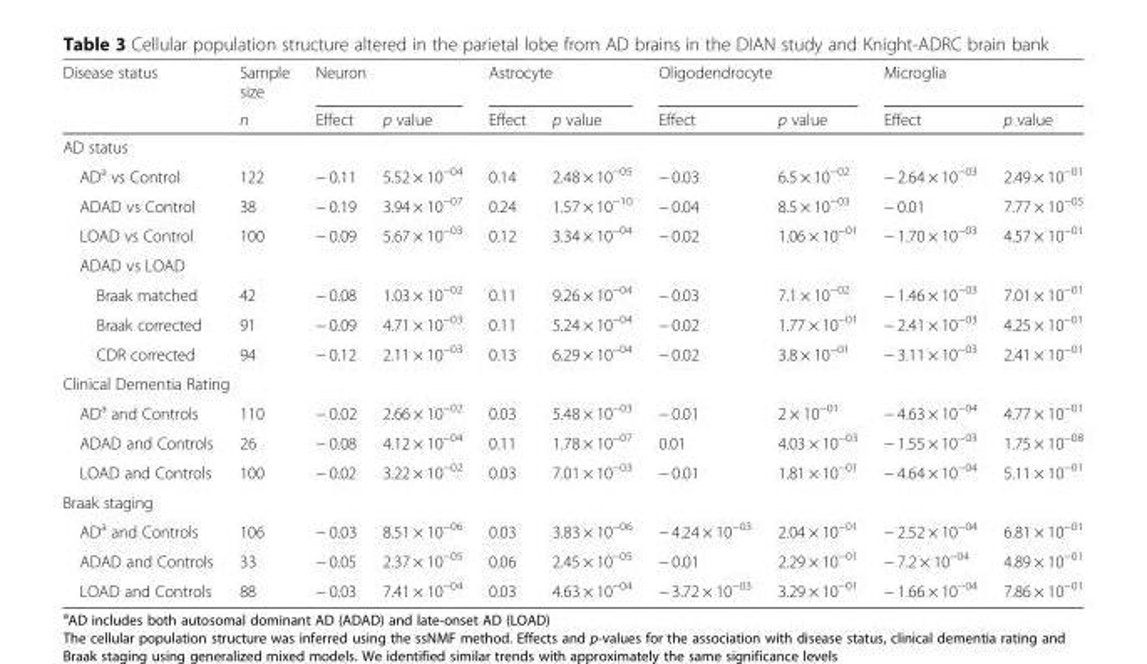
<table><thead><tr><td rowspan="2">Disease status</td><td rowspan="2">Sample size n</td><td colspan="2">Neuron</td><td colspan="2">Astrocyte</td><td colspan="2">Oligodendrocyte</td><td colspan="2">Microglia</td></tr><tr><td>Effect</td><td>p value</td><td>Effect</td><td>p value</td><td>Effect</td><td>p value</td><td>Effect</td><td>p value</td></tr></thead><tbody><tr><td colspan="10">AD status</td></tr><tr><td>AD<sup>a</sup> vs Control</td><td>122</td><td>− 0.11</td><td>5.52 × 10<sup>−04</sup></td><td>0.14</td><td>2.48 × 10<sup>−05</sup></td><td>− 0.03</td><td>6.5 × 10<sup>−02</sup></td><td>− 2.64 × 10<sup>−03</sup></td><td>2.49 × 10<sup>−01</sup></td></tr><tr><td>ADAD vs Control</td><td>38</td><td>− 0.19</td><td>3.94 × 10<sup>−07</sup></td><td>0.24</td><td>1.57 × 10<sup>−10</sup></td><td>− 0.04</td><td>8.5 × 10<sup>−03</sup></td><td>− 0.01</td><td>7.77 × 10<sup>−05</sup></td></tr><tr><td>LOAD vs Control</td><td>100</td><td>− 0.09</td><td>5.67 × 10<sup>−03</sup></td><td>0.12</td><td>3.34 × 10<sup>−04</sup></td><td>− 0.02</td><td>1.06 × 10<sup>−01</sup></td><td>− 1.70 × 10<sup>−03</sup></td><td>4.57 × 10<sup>−01</sup></td></tr><tr><td colspan="10">ADAD vs LOAD</td></tr><tr><td>Braak matched</td><td>42</td><td>− 0.08</td><td>1.03 × 10<sup>−02</sup></td><td>0.11</td><td>9.26 × 10<sup>−04</sup></td><td>− 0.03</td><td>7.1 × 10<sup>−02</sup></td><td>− 1.46 × 10<sup>−03</sup></td><td>7.01 × 10<sup>−01</sup></td></tr><tr><td>Braak corrected</td><td>91</td><td>− 0.09</td><td>4.71 × 10<sup>−03</sup></td><td>0.11</td><td>5.24 × 10<sup>−04</sup></td><td>− 0.02</td><td>1.77 × 10<sup>−01</sup></td><td>− 2.41 × 10<sup>−03</sup></td><td>4.25 × 10<sup>−01</sup></td></tr><tr><td>CDR corrected</td><td>94</td><td>− 0.12</td><td>2.11 × 10<sup>−03</sup></td><td>0.13</td><td>6.29 × 10<sup>−04</sup></td><td>− 0.02</td><td>3.8 × 10<sup>−01</sup></td><td>− 3.11 × 10<sup>−03</sup></td><td>2.41 × 10<sup>−01</sup></td></tr><tr><td colspan="10">Clinical Dementia Rating</td></tr><tr><td>AD<sup>a</sup> and Controls</td><td>110</td><td>− 0.02</td><td>2.66 × 10<sup>−02</sup></td><td>0.03</td><td>5.48 × 10<sup>−03</sup></td><td>− 0.01</td><td>2 × 10<sup>−01</sup></td><td>− 4.63 × 10<sup>−04</sup></td><td>4.77 × 10<sup>−01</sup></td></tr><tr><td>ADAD and Controls</td><td>26</td><td>− 0.08</td><td>4.12 × 10<sup>−04</sup></td><td>0.11</td><td>1.78 × 10<sup>−07</sup></td><td>0.01</td><td>4.03 × 10<sup>−03</sup></td><td>− 1.55 × 10<sup>−03</sup></td><td>1.75 × 10<sup>−08</sup></td></tr><tr><td>LOAD and Controls</td><td>100</td><td>− 0.02</td><td>3.22 × 10<sup>−02</sup></td><td>0.03</td><td>7.01 × 10<sup>−03</sup></td><td>− 0.01</td><td>1.81 × 10<sup>−01</sup></td><td>− 4.64 × 10<sup>−04</sup></td><td>5.11 × 10<sup>−01</sup></td></tr><tr><td colspan="10">Braak staging</td></tr><tr><td>AD<sup>a</sup> and Controls</td><td>106</td><td>− 0.03</td><td>8.51 × 10<sup>−06</sup></td><td>0.03</td><td>3.83 × 10<sup>−06</sup></td><td>− 4.24 × 10<sup>−03</sup></td><td>2.04 × 10<sup>−01</sup></td><td>− 2.52 × 10<sup>−04</sup></td><td>6.81 × 10<sup>−01</sup></td></tr><tr><td>ADAD and Controls</td><td>33</td><td>− 0.05</td><td>2.37 × 10<sup>−05</sup></td><td>0.06</td><td>2.45 × 10<sup>−05</sup></td><td>− 0.01</td><td>2.29 × 10<sup>−01</sup></td><td>− 7.2 × 10<sup>−04</sup></td><td>4.89 × 10<sup>−01</sup></td></tr><tr><td>LOAD and Controls</td><td>88</td><td>− 0.03</td><td>7.41 × 10<sup>−04</sup></td><td>0.03</td><td>4.63 × 10<sup>−04</sup></td><td>− 3.72 × 10<sup>−03</sup></td><td>3.29 × 10<sup>−01</sup></td><td>− 1.66 × 10<sup>−04</sup></td><td>7.86 × 10<sup>−01</sup></td></tr></tbody></table>